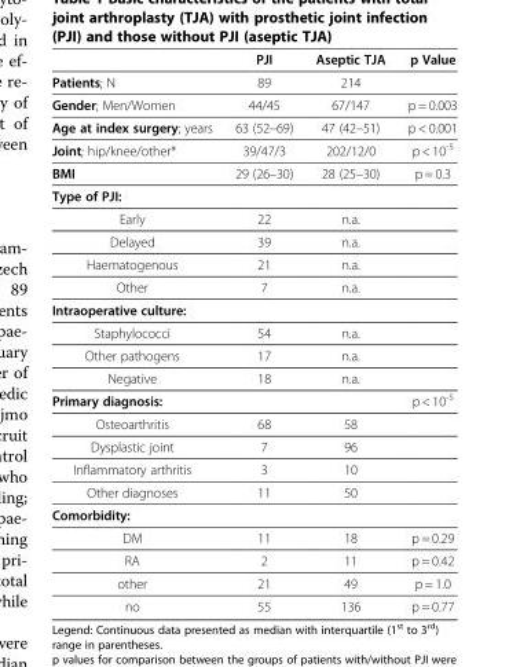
<table><thead><tr><td></td><td>PJI</td><td>Aseptic TJA</td><td>p Value</td></tr></thead><tbody><tr><td>Patients; N</td><td>89</td><td>214</td><td></td></tr><tr><td>Gender; Men/Women</td><td>44/45</td><td>67/147</td><td>p = 0.003</td></tr><tr><td>Age at index surgery; years</td><td>63 (52–69)</td><td>47 (42–51)</td><td>p &lt; 0.001</td></tr><tr><td>Joint; hip/knee/other*</td><td>39/47/3</td><td>202/12/0</td><td>p &lt; 10<sup>-5</sup></td></tr><tr><td>BMI</td><td>29 (26–30)</td><td>28 (25–30)</td><td>p = 0.3</td></tr><tr><td colspan="4">Type of PJI:</td></tr><tr><td>Early</td><td>22</td><td>n.a.</td><td></td></tr><tr><td>Delayed</td><td>39</td><td>n.a.</td><td></td></tr><tr><td>Haematogenous</td><td>21</td><td>n.a.</td><td></td></tr><tr><td>Other</td><td>7</td><td>n.a.</td><td></td></tr><tr><td colspan="4">Intraoperative culture:</td></tr><tr><td>Staphylococci</td><td>54</td><td>n.a.</td><td></td></tr><tr><td>Other pathogens</td><td>17</td><td>n.a.</td><td></td></tr><tr><td>Negative</td><td>18</td><td>n.a.</td><td></td></tr><tr><td>Primary diagnosis:</td><td></td><td></td><td>p &lt; 10<sup>-5</sup></td></tr><tr><td>Osteoarthritis</td><td>68</td><td>58</td><td></td></tr><tr><td>Dysplastic joint</td><td>7</td><td>96</td><td></td></tr><tr><td>Inflammatory arthritis</td><td>3</td><td>10</td><td></td></tr><tr><td>Other diagnoses</td><td>11</td><td>50</td><td></td></tr><tr><td colspan="4">Comorbidity:</td></tr><tr><td>DM</td><td>11</td><td>18</td><td>p = 0.29</td></tr><tr><td>RA</td><td>2</td><td>11</td><td>p = 0.42</td></tr><tr><td>other</td><td>21</td><td>49</td><td>p = 1.0</td></tr><tr><td>no</td><td>55</td><td>136</td><td>p = 0.77</td></tr></tbody></table>